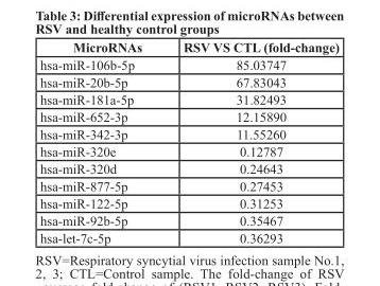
<table><thead><tr><td>MicroRNAs</td><td>RSV VS CTL (fold-change)</td></tr></thead><tbody><tr><td>hsa-miR-106b-5p</td><td>85.03747</td></tr><tr><td>hsa-miR-20b-5p</td><td>67.83043</td></tr><tr><td>hsa-miR-181a-5p</td><td>31.82493</td></tr><tr><td>hsa-miR-652-3p</td><td>12.15890</td></tr><tr><td>hsa-miR-342-3p</td><td>11.55260</td></tr><tr><td>hsa-miR-320e</td><td>0.12787</td></tr><tr><td>hsa-miR-320d</td><td>0.24643</td></tr><tr><td>hsa-miR-877-5p</td><td>0.27453</td></tr><tr><td>hsa-miR-122-5p</td><td>0.31253</td></tr><tr><td>hsa-miR-92b-5p</td><td>0.35467</td></tr><tr><td>hsa-let-7c-5p</td><td>0.36293</td></tr></tbody></table>